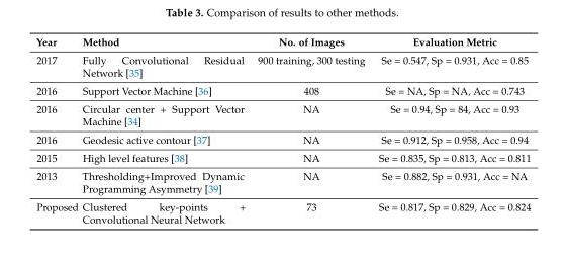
<table><thead><tr><td>Year</td><td>Method</td><td>No. of Images</td><td>Evaluation Metric</td></tr></thead><tbody><tr><td>2017</td><td>Fully Convolutional Residual Network [35]</td><td>900 training, 300 testing</td><td>Se = 0.547, Sp = 0.931, Acc = 0.85</td></tr><tr><td>2016</td><td>Support Vector Machine [36]</td><td>408</td><td>Se = NA, Sp = NA, Acc = 0.743</td></tr><tr><td>2016</td><td>Circular center + Support Vector Machine [34]</td><td>NA</td><td>Se = 0.94, Sp = 84, Acc = 0.93</td></tr><tr><td>2016</td><td>Geodesic active contour [37]</td><td>NA</td><td>Se = 0.912, Sp = 0.958, Acc = 0.94</td></tr><tr><td>2015</td><td>High level features [38]</td><td>NA</td><td>Se = 0.835, Sp = 0.813, Acc = 0.811</td></tr><tr><td>2013</td><td>Thresholding+Improved Dynamic Programming Asymmetry [39]</td><td>NA</td><td>Se = 0.882, Sp = 0.931, Acc = NA</td></tr><tr><td>Proposed</td><td>Clustered key-points + Convolutional Neural Network</td><td>73</td><td>Se = 0.817, Sp = 0.829, Acc = 0.824</td></tr></tbody></table>